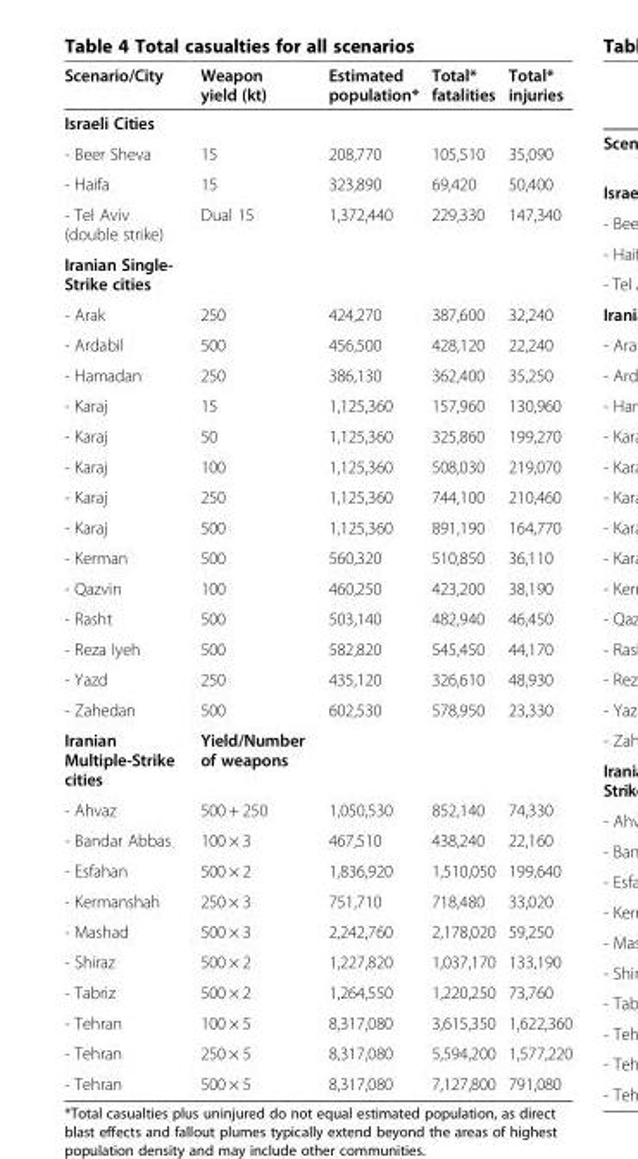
<table><thead><tr><td>Scenario/City</td><td>Weapon yield (kt)</td><td>Estimated population*</td><td>Total* fatalities</td><td>Total* injuries</td></tr></thead><tbody><tr><td colspan="5">Israeli Cities</td></tr><tr><td>- Beer Sheva</td><td>15</td><td>208,770</td><td>105,510</td><td>35,090</td></tr><tr><td>- Haifa</td><td>15</td><td>323,890</td><td>69,420</td><td>50,400</td></tr><tr><td>- Tel Aviv (double strike)</td><td>Dual 15</td><td>1,372,440</td><td>229,330</td><td>147,340</td></tr><tr><td colspan="5">Iranian Single- Strike cities</td></tr><tr><td>- Arak</td><td>250</td><td>424,270</td><td>387,600</td><td>32,240</td></tr><tr><td>- Ardabil</td><td>500</td><td>456,500</td><td>428,120</td><td>22,240</td></tr><tr><td>- Hamadan</td><td>250</td><td>386,130</td><td>362,400</td><td>35,250</td></tr><tr><td>- Karaj</td><td>15</td><td>1,125,360</td><td>157,960</td><td>130,960</td></tr><tr><td>- Karaj</td><td>50</td><td>1,125,360</td><td>325,860</td><td>199,270</td></tr><tr><td>- Karaj</td><td>100</td><td>1,125,360</td><td>508,030</td><td>219,070</td></tr><tr><td>- Karaj</td><td>250</td><td>1,125,360</td><td>744,100</td><td>210,460</td></tr><tr><td>- Karaj</td><td>500</td><td>1,125,360</td><td>891,190</td><td>164,770</td></tr><tr><td>- Kerman</td><td>500</td><td>560,320</td><td>510,850</td><td>36,110</td></tr><tr><td>- Qazvin</td><td>100</td><td>460,250</td><td>423,200</td><td>38,190</td></tr><tr><td>- Rasht</td><td>500</td><td>503,140</td><td>482,940</td><td>46,450</td></tr><tr><td>- Reza Iyeh</td><td>500</td><td>582,820</td><td>545,450</td><td>44,170</td></tr><tr><td>- Yazd</td><td>250</td><td>435,120</td><td>326,610</td><td>48,930</td></tr><tr><td>- Zahedan</td><td>500</td><td>602,530</td><td>578,950</td><td>23,330</td></tr><tr><td>Iranian Multiple-Strike cities</td><td>Yield/Number of weapons</td><td></td><td></td><td></td></tr><tr><td>- Ahvaz</td><td>500 + 250</td><td>1,050,530</td><td>852,140</td><td>74,330</td></tr><tr><td>- Bandar Abbas</td><td>100 × 3</td><td>467,510</td><td>438,240</td><td>22,160</td></tr><tr><td>- Esfahan</td><td>500 × 2</td><td>1,836,920</td><td>1,510,050</td><td>199,640</td></tr><tr><td>- Kermanshah</td><td>250 × 3</td><td>751,710</td><td>718,480</td><td>33,020</td></tr><tr><td>- Mashad</td><td>500 × 3</td><td>2,242,760</td><td>2,178,020</td><td>59,250</td></tr><tr><td>- Shiraz</td><td>500 × 2</td><td>1,227,820</td><td>1,037,170</td><td>133,190</td></tr><tr><td>- Tabriz</td><td>500 × 2</td><td>1,264,550</td><td>1,220,250</td><td>73,760</td></tr><tr><td>- Tehran</td><td>100 × 5</td><td>8,317,080</td><td>3,615,350</td><td>1,622,360</td></tr><tr><td>- Tehran</td><td>250 × 5</td><td>8,317,080</td><td>5,594,200</td><td>1,577,220</td></tr><tr><td>- Tehran</td><td>500 × 5</td><td>8,317,080</td><td>7,127,800</td><td>791,080</td></tr></tbody></table>